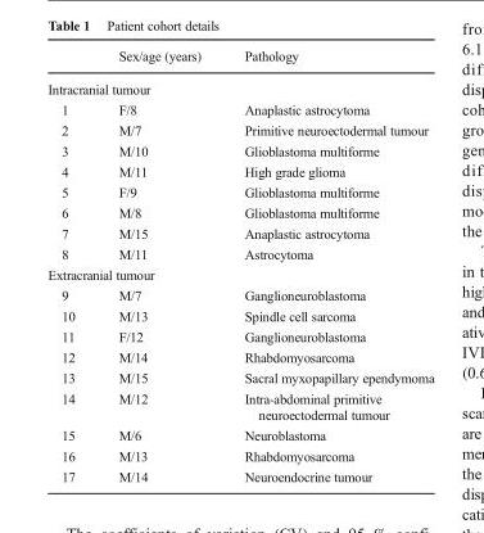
<table><thead><tr><td></td><td>Sex/age (years)</td><td>Pathology</td></tr></thead><tbody><tr><td colspan="3">Intracranial tumour</td></tr><tr><td>1</td><td>F/8</td><td>Anaplastic astrocytoma</td></tr><tr><td>2</td><td>M/7</td><td>Primitive neuroectodermal tumour</td></tr><tr><td>3</td><td>M/10</td><td>Glioblastoma multiforme</td></tr><tr><td>4</td><td>M/11</td><td>High grade glioma</td></tr><tr><td>5</td><td>F/9</td><td>Glioblastoma multiforme</td></tr><tr><td>6</td><td>M/8</td><td>Glioblastoma multiforme</td></tr><tr><td>7</td><td>M/15</td><td>Anaplastic astrocytoma</td></tr><tr><td>8</td><td>M/11</td><td>Astrocytoma</td></tr><tr><td colspan="3">Extracranial tumour</td></tr><tr><td>9</td><td>M/7</td><td>Ganglioneuroblastoma</td></tr><tr><td>10</td><td>M/13</td><td>Spindle cell sarcoma</td></tr><tr><td>11</td><td>F/12</td><td>Ganglioneuroblastoma</td></tr><tr><td>12</td><td>M/14</td><td>Rhabdomyosarcoma</td></tr><tr><td>13</td><td>M/15</td><td>Sacral myxopapillary ependymoma</td></tr><tr><td>14</td><td>M/12</td><td>Intra-abdominal primitive neuroectodermal tumour</td></tr><tr><td>15</td><td>M/6</td><td>Neuroblastoma</td></tr><tr><td>16</td><td>M/13</td><td>Rhabdomyosarcoma</td></tr><tr><td>17</td><td>M/14</td><td>Neuroendocrine tumour</td></tr></tbody></table>